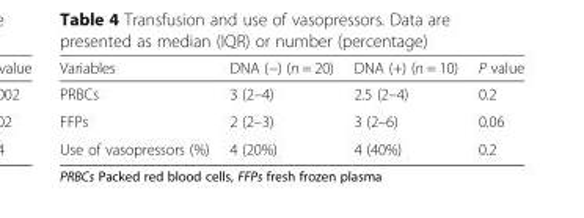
<table><thead><tr><td>Variables</td><td>DNA (−) (n = 20)</td><td>DNA (+) (n = 10)</td><td>P value</td></tr></thead><tbody><tr><td>PRBCs</td><td>3 (2–4)</td><td>2.5 (2–4)</td><td>0.2</td></tr><tr><td>FFPs</td><td>2 (2–3)</td><td>3 (2–6)</td><td>0.06</td></tr><tr><td>Use of vasopressors (%)</td><td>4 (20%)</td><td>4 (40%)</td><td>0.2</td></tr></tbody></table>